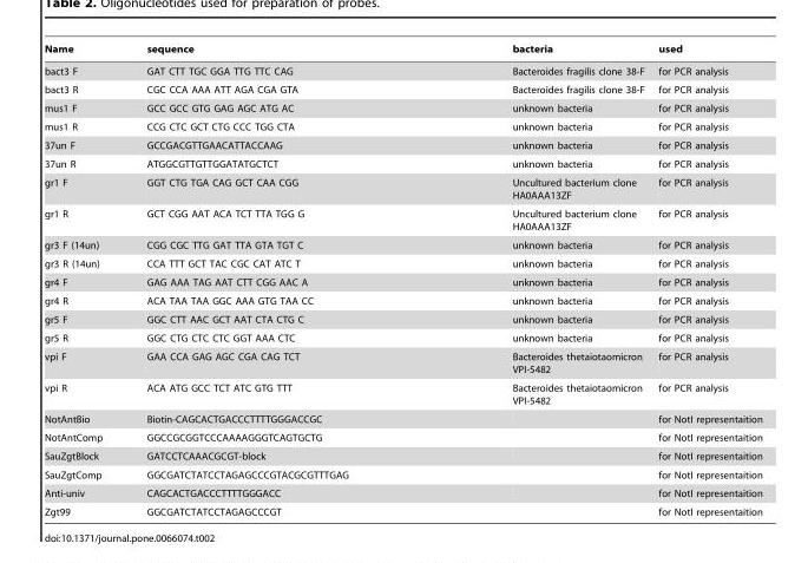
<table><thead><tr><td>Name</td><td>sequence</td><td>bacteria</td><td>used</td></tr></thead><tbody><tr><td>bact3 F</td><td>GAT CTT TGC GGA TTG TTC CAG</td><td>Bacteroides fragilis clone 38-F</td><td>for PCR analysis</td></tr><tr><td>bact3 R</td><td>CGC CCA AAA ATT AGA CGA GTA</td><td>Bacteroides fragilis clone 38-F</td><td>for PCR analysis</td></tr><tr><td>mus1 F</td><td>GCC GCC GTG GAG AGC ATG AC</td><td>unknown bacteria</td><td>for PCR analysis</td></tr><tr><td>mus1 R</td><td>CCG CTC GCT CTG CCC TGG CTA</td><td>unknown bacteria</td><td>for PCR analysis</td></tr><tr><td>37un F</td><td>GCCGACGTTGAACATTACCAAG</td><td>unknown bacteria</td><td>for PCR analysis</td></tr><tr><td>37un R</td><td>ATGGCGTTGTTGGATATGCTCT</td><td>unknown bacteria</td><td>for PCR analysis</td></tr><tr><td>gr1 F</td><td>GGT CTG TGA CAG GCT CAA CGG</td><td>Uncultured bacterium clone HA0AAA13ZF</td><td>for PCR analysis</td></tr><tr><td>gr1 R</td><td>GCT CGG AAT ACA TCT TTA TGG G</td><td>Uncultured bacterium clone HA0AAA13ZF</td><td>for PCR analysis</td></tr><tr><td>gr3 F (14un)</td><td>CGG CGC TTG GAT TTA GTA TGT C</td><td>unknown bacteria</td><td>for PCR analysis</td></tr><tr><td>gr3 R (14un)</td><td>CCA TTT GCT TAC CGC CAT ATC T</td><td>unknown bacteria</td><td>for PCR analysis</td></tr><tr><td>gr4 F</td><td>GAG AAA TAG AAT CTT CGG AAC A</td><td>unknown bacteria</td><td>for PCR analysis</td></tr><tr><td>gr4 R</td><td>ACA TAA TAA GGC AAA GTG TAA CC</td><td>unknown bacteria</td><td>for PCR analysis</td></tr><tr><td>gr5 F</td><td>GGC CTT AAC GCT AAT CTA CTG C</td><td>unknown bacteria</td><td>for PCR analysis</td></tr><tr><td>gr5 R</td><td>GGC CTG CTC CTC GGT AAA CTC</td><td>unknown bacteria</td><td>for PCR analysis</td></tr><tr><td>vpi F</td><td>GAA CCA GAG AGC CGA CAG TCT</td><td>Bacteroides thetaiotaomicron VPI-5482</td><td>for PCR analysis</td></tr><tr><td>vpi R</td><td>ACA ATG GCC TCT ATC GTG TTT</td><td>Bacteroides thetaiotaomicron VPI-5482</td><td>for PCR analysis</td></tr><tr><td>NotAntBio</td><td>Biotin-CAGCACTGACCCTTTTGGGACCGC</td><td></td><td>for NotI representaition</td></tr><tr><td>NotAntComp</td><td>GGCCGCGGTCCCAAAAGGGTCAGTGCTG</td><td></td><td>for NotI representaition</td></tr><tr><td>SauZgtBlock</td><td>GATCCTCAAACGCGT-block</td><td></td><td>for NotI representaition</td></tr><tr><td>SauZgtComp</td><td>GGCGATCTATCCTAGAGCCCGTACGCGTTTGAG</td><td></td><td>for NotI representaition</td></tr><tr><td>Anti-univ</td><td>CAGCACTGACCCTTTTGGGACC</td><td></td><td>for NotI representaition</td></tr><tr><td>Zgt99</td><td>GGCGATCTATCCTAGAGCCCGT</td><td></td><td>for NotI representaition</td></tr></tbody></table>